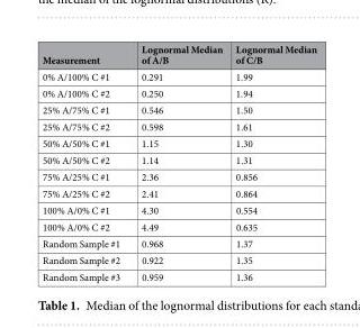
<table><thead><tr><td>Measurement</td><td>Lognormal Median of A/B</td><td>Lognormal Median of C/B</td></tr></thead><tbody><tr><td>0% A/100% C #1</td><td>0.291</td><td>1.99</td></tr><tr><td>0% A/100% C #2</td><td>0.250</td><td>1.94</td></tr><tr><td>25% A/75% C #1</td><td>0.546</td><td>1.50</td></tr><tr><td>25% A/75% C #2</td><td>0.598</td><td>1.61</td></tr><tr><td>50% A/50% C #1</td><td>1.15</td><td>1.30</td></tr><tr><td>50% A/50% C #2</td><td>1.14</td><td>1.31</td></tr><tr><td>75% A/25% C #1</td><td>2.36</td><td>0.856</td></tr><tr><td>75% A/25% C #2</td><td>2.41</td><td>0.864</td></tr><tr><td>100% A/0% C #1</td><td>4.30</td><td>0.554</td></tr><tr><td>100% A/0% C #2</td><td>4.49</td><td>0.635</td></tr><tr><td>Random Sample #1</td><td>0.968</td><td>1.37</td></tr><tr><td>Random Sample #2</td><td>0.922</td><td>1.35</td></tr><tr><td>Random Sample #3</td><td>0.959</td><td>1.36</td></tr></tbody></table>